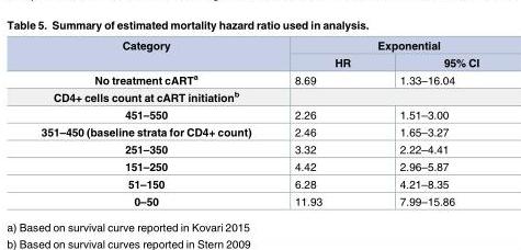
<table><thead><tr><td rowspan="2">Category</td><td colspan="2">Exponential</td></tr><tr><td>HR</td><td>95% CI</td></tr></thead><tbody><tr><td>No treatment cART<sup>a</sup></td><td>8.69</td><td>1.33–16.04</td></tr><tr><td colspan="3">CD4+ cells count at cART initiation<sup>b</sup></td></tr><tr><td>451–550</td><td>2.26</td><td>1.51–3.00</td></tr><tr><td>351–450 (baseline strata for CD4+ count)</td><td>2.46</td><td>1.65–3.27</td></tr><tr><td>251–350</td><td>3.32</td><td>2.22–4.41</td></tr><tr><td>151–250</td><td>4.42</td><td>2.96–5.87</td></tr><tr><td>51–150</td><td>6.28</td><td>4.21–8.35</td></tr><tr><td>0–50</td><td>11.93</td><td>7.99–15.86</td></tr></tbody></table>